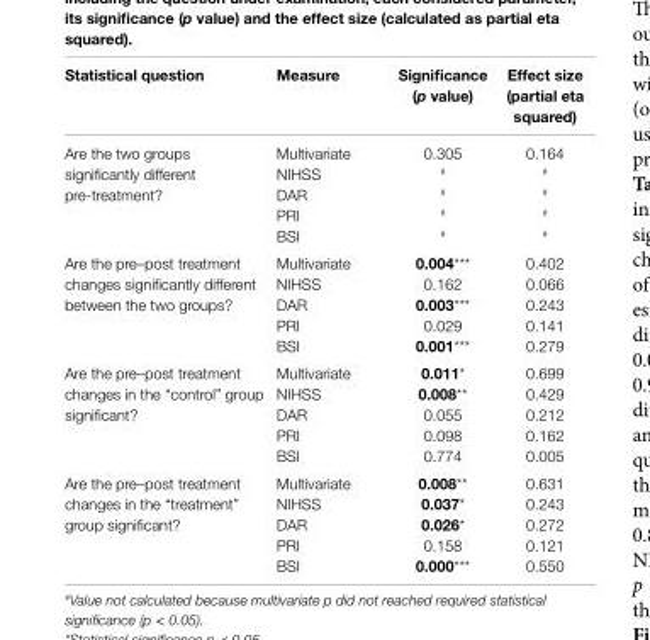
<table><thead><tr><td>statistical question</td><td>Measure</td><td>significance (p value)</td><td>effect size (partial eta squared)</td></tr></thead><tbody><tr><td rowspan="5">Are the two groups significantly different pre-treatment?</td><td>Multivariate</td><td>0.305</td><td>0.164</td></tr><tr><td>NIHSS</td><td><sup>#</sup></td><td><sup>#</sup></td></tr><tr><td>DAR</td><td><sup>#</sup></td><td><sup>#</sup></td></tr><tr><td>PRI</td><td><sup>#</sup></td><td><sup>#</sup></td></tr><tr><td>BSI</td><td><sup>#</sup></td><td><sup>#</sup></td></tr><tr><td rowspan="5">Are the pre–post treatment changes significantly different between the two groups?</td><td>Multivariate</td><td>0.004***</td><td>0.402</td></tr><tr><td>NIHSS</td><td>0.162</td><td>0.066</td></tr><tr><td>DAR</td><td>0.003***</td><td>0.243</td></tr><tr><td>PRI</td><td>0.029</td><td>0.141</td></tr><tr><td>BSI</td><td>0.001***</td><td>0.279</td></tr><tr><td rowspan="5">Are the pre–post treatment changes in the “control” group significant?</td><td>Multivariate</td><td>0.011*</td><td>0.699</td></tr><tr><td>NIHSS</td><td>0.008**</td><td>0.429</td></tr><tr><td>DAR</td><td>0.055</td><td>0.212</td></tr><tr><td>PRI</td><td>0.098</td><td>0.162</td></tr><tr><td>BSI</td><td>0.774</td><td>0.005</td></tr><tr><td rowspan="5">Are the pre–post treatment changes in the “treatment” group significant?</td><td>Multivariate</td><td>0.008**</td><td>0.631</td></tr><tr><td>NIHSS</td><td>0.037*</td><td>0.243</td></tr><tr><td>DAR</td><td>0.026*</td><td>0.272</td></tr><tr><td>PRI</td><td>0.158</td><td>0.121</td></tr><tr><td>BSI</td><td>0.000***</td><td>0.550</td></tr></tbody></table>